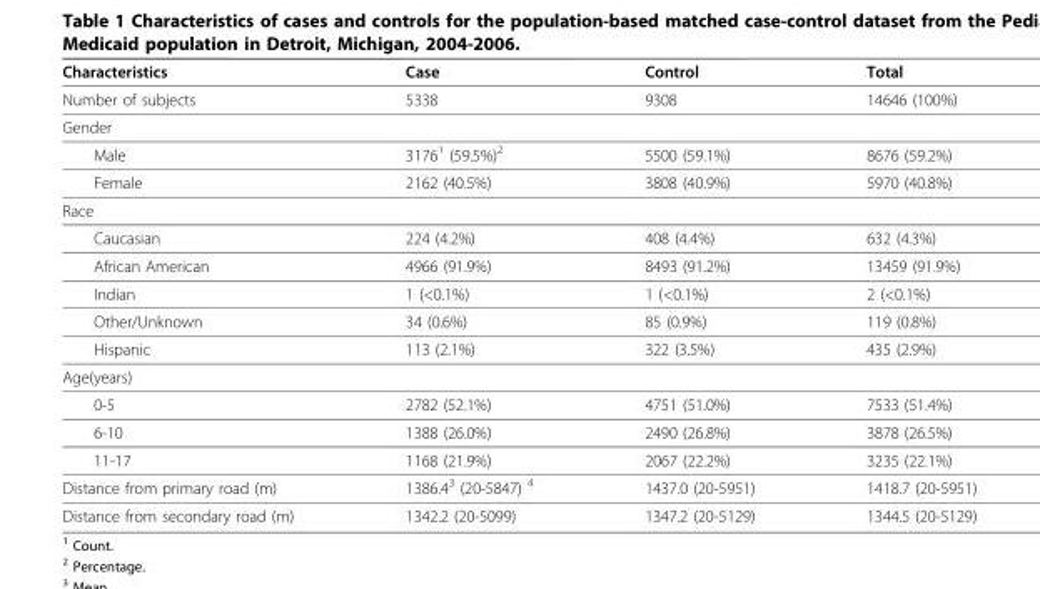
<table><thead><tr><td>Characteristics</td><td>Case</td><td>Control</td><td>Total</td></tr></thead><tbody><tr><td>Number of subjects</td><td>5338</td><td>9308</td><td>14646 (100%)</td></tr><tr><td colspan="4">Gender</td></tr><tr><td>Male</td><td>3176<sup>1</sup> (59.5%)<sup>2</sup></td><td>5500 (59.1%)</td><td>8676 (59.2%)</td></tr><tr><td>Female</td><td>2162 (40.5%)</td><td>3808 (40.9%)</td><td>5970 (40.8%)</td></tr><tr><td colspan="4">Race</td></tr><tr><td>Caucasian</td><td>224 (4.2%)</td><td>408 (4.4%)</td><td>632 (4.3%)</td></tr><tr><td>African American</td><td>4966 (91.9%)</td><td>8493 (91.2%)</td><td>13459 (91.9%)</td></tr><tr><td>Indian</td><td>1 (&lt;0.1%)</td><td>1 (&lt;0.1%)</td><td>2 (&lt;0.1%)</td></tr><tr><td>Other/Unknown</td><td>34 (0.6%)</td><td>85 (0.9%)</td><td>119 (0.8%)</td></tr><tr><td>Hispanic</td><td>113 (2.1%)</td><td>322 (3.5%)</td><td>435 (2.9%)</td></tr><tr><td colspan="4">Age(years)</td></tr><tr><td>0-5</td><td>2782 (52.1%)</td><td>4751 (51.0%)</td><td>7533 (51.4%)</td></tr><tr><td>6-10</td><td>1388 (26.0%)</td><td>2490 (26.8%)</td><td>3878 (26.5%)</td></tr><tr><td>11-17</td><td>1168 (21.9%)</td><td>2067 (22.2%)</td><td>3235 (22.1%)</td></tr><tr><td>Distance from primary road (m)</td><td>1386.4<sup>3</sup> (20-5847) <sup>4</sup></td><td>1437.0 (20-5951)</td><td>1418.7 (20-5951)</td></tr><tr><td>Distance from secondary road (m)</td><td>1342.2 (20-5099)</td><td>1347.2 (20-5129)</td><td>1344.5 (20-5129)</td></tr></tbody></table>